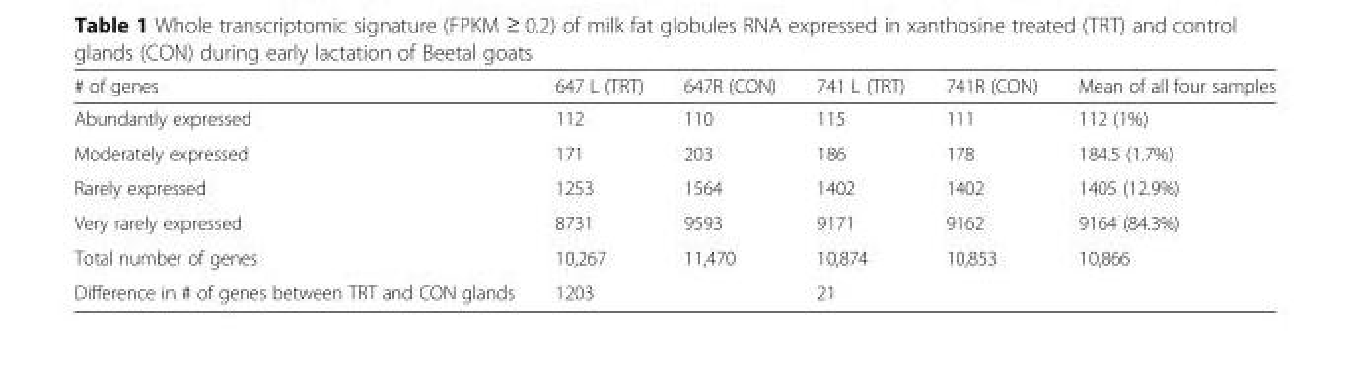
<table><thead><tr><td># of genes</td><td>647 L (TRT)</td><td>647R (CON)</td><td>741 L (TRT)</td><td>741R (CON)</td><td>Mean of all four samples</td></tr></thead><tbody><tr><td>Abundantly expressed</td><td>112</td><td>110</td><td>115</td><td>111</td><td>112 (1%)</td></tr><tr><td>Moderately expressed</td><td>171</td><td>203</td><td>186</td><td>178</td><td>184.5 (1.7%)</td></tr><tr><td>Rarely expressed</td><td>1253</td><td>1564</td><td>1402</td><td>1402</td><td>1405 (12.9%)</td></tr><tr><td>Very rarely expressed</td><td>8731</td><td>9593</td><td>9171</td><td>9162</td><td>9164 (84.3%)</td></tr><tr><td>Total number of genes</td><td>10,267</td><td>11,470</td><td>10,874</td><td>10,853</td><td>10,866</td></tr><tr><td>Difference in # of genes between TRT and CON glands</td><td colspan="2">1203</td><td colspan="2">21</td><td></td></tr></tbody></table>